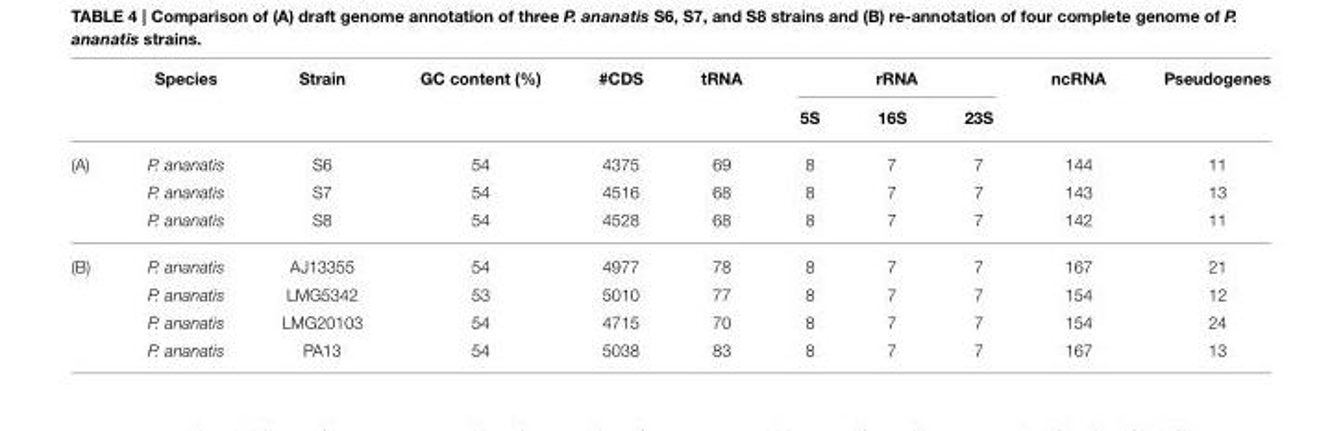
<table><thead><tr><td rowspan="2"></td><td rowspan="2">Species</td><td rowspan="2">Strain</td><td rowspan="2">GC content (%)</td><td rowspan="2">#CDS</td><td rowspan="2">tRNA</td><td colspan="3">rRNA</td><td rowspan="2">ncRNA</td><td rowspan="2">Pseudogenes</td></tr><tr><td>5S</td><td>16S</td><td>23S</td></tr></thead><tbody><tr><td rowspan="3">(A)</td><td>P. ananatis</td><td>S6</td><td>54</td><td>4375</td><td>69</td><td>8</td><td>7</td><td>7</td><td>144</td><td>11</td></tr><tr><td>P. ananatis</td><td>S7</td><td>54</td><td>4516</td><td>68</td><td>8</td><td>7</td><td>7</td><td>143</td><td>13</td></tr><tr><td>P. ananatis</td><td>S8</td><td>54</td><td>4528</td><td>68</td><td>8</td><td>7</td><td>7</td><td>142</td><td>11</td></tr><tr><td rowspan="4">(B)</td><td>P. ananatis</td><td>AJ13355</td><td>54</td><td>4977</td><td>78</td><td>8</td><td>7</td><td>7</td><td>167</td><td>21</td></tr><tr><td>P. ananatis</td><td>LMG5342</td><td>53</td><td>5010</td><td>77</td><td>8</td><td>7</td><td>7</td><td>154</td><td>12</td></tr><tr><td>P. ananatis</td><td>LMG20103</td><td>54</td><td>4715</td><td>70</td><td>8</td><td>7</td><td>7</td><td>154</td><td>24</td></tr><tr><td>P. ananatis</td><td>PA13</td><td>54</td><td>5038</td><td>83</td><td>8</td><td>7</td><td>7</td><td>167</td><td>13</td></tr></tbody></table>